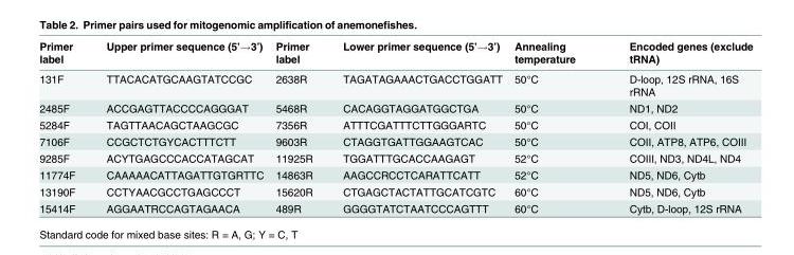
<table><thead><tr><td>Primer label</td><td>Upper primer sequence (5’→3’)</td><td>Primer label</td><td>Lower primer sequence (5’→3’)</td><td>Annealing temperature</td><td>Encoded genes (exclude tRNA)</td></tr></thead><tbody><tr><td>131F</td><td>TTACACATGCAAGTATCCGC</td><td>2638R</td><td>TAGATAGAAACTGACCTGGATT</td><td>50°C</td><td>D-loop, 12S rRNA, 16S rRNA</td></tr><tr><td>2485F</td><td>ACCGAGTTACCCCAGGGAT</td><td>5468R</td><td>CACAGGTAGGATGGCTGA</td><td>50°C</td><td>ND1, ND2</td></tr><tr><td>5284F</td><td>TAGTTAACAGCTAAGCGC</td><td>7356R</td><td>ATTTCGATTTCTTGGGARTC</td><td>50°C</td><td>COI, COII</td></tr><tr><td>7106F</td><td>CCGCTCTGYCACTTTCTT</td><td>9603R</td><td>CTAGGTGATTGGAAGTCAC</td><td>50°C</td><td>COII, ATP8, ATP6, COIII</td></tr><tr><td>9285F</td><td>ACYTGAGCCCACCATAGCAT</td><td>11925R</td><td>TGGATTTGCACCAAGAGT</td><td>52°C</td><td>COIII, ND3, ND4L, ND4</td></tr><tr><td>11774F</td><td>CAAAAACATTAGATTGTGRTTC</td><td>14863R</td><td>AAGCCRCCTCARATTCATT</td><td>52°C</td><td>ND5, ND6, Cytb</td></tr><tr><td>13190F</td><td>CCTYAACGCCTGAGCCCT</td><td>15620R</td><td>CTGAGCTACTATTGCATCGTC</td><td>60°C</td><td>ND5, ND6, Cytb</td></tr><tr><td>15414F</td><td>AGGAATRCCAGTAGAACA</td><td>489R</td><td>GGGGTATCTAATCCCAGTTT</td><td>60°C</td><td>Cytb, D-loop, 12S rRNA</td></tr></tbody></table>